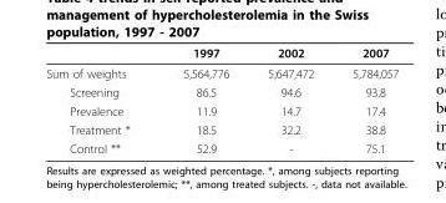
<table><thead><tr><td></td><td>1997</td><td>2002</td><td>2007</td></tr></thead><tbody><tr><td>Sum of weights</td><td>5,564,776</td><td>5,647,472</td><td>5,784,057</td></tr><tr><td>Screening</td><td>86.5</td><td>94.6</td><td>93.8</td></tr><tr><td>Prevalence</td><td>11.9</td><td>14.7</td><td>17.4</td></tr><tr><td>Treatment *</td><td>18.5</td><td>32.2</td><td>38.8</td></tr><tr><td>Control **</td><td>52.9</td><td>-</td><td>75.1</td></tr></tbody></table>